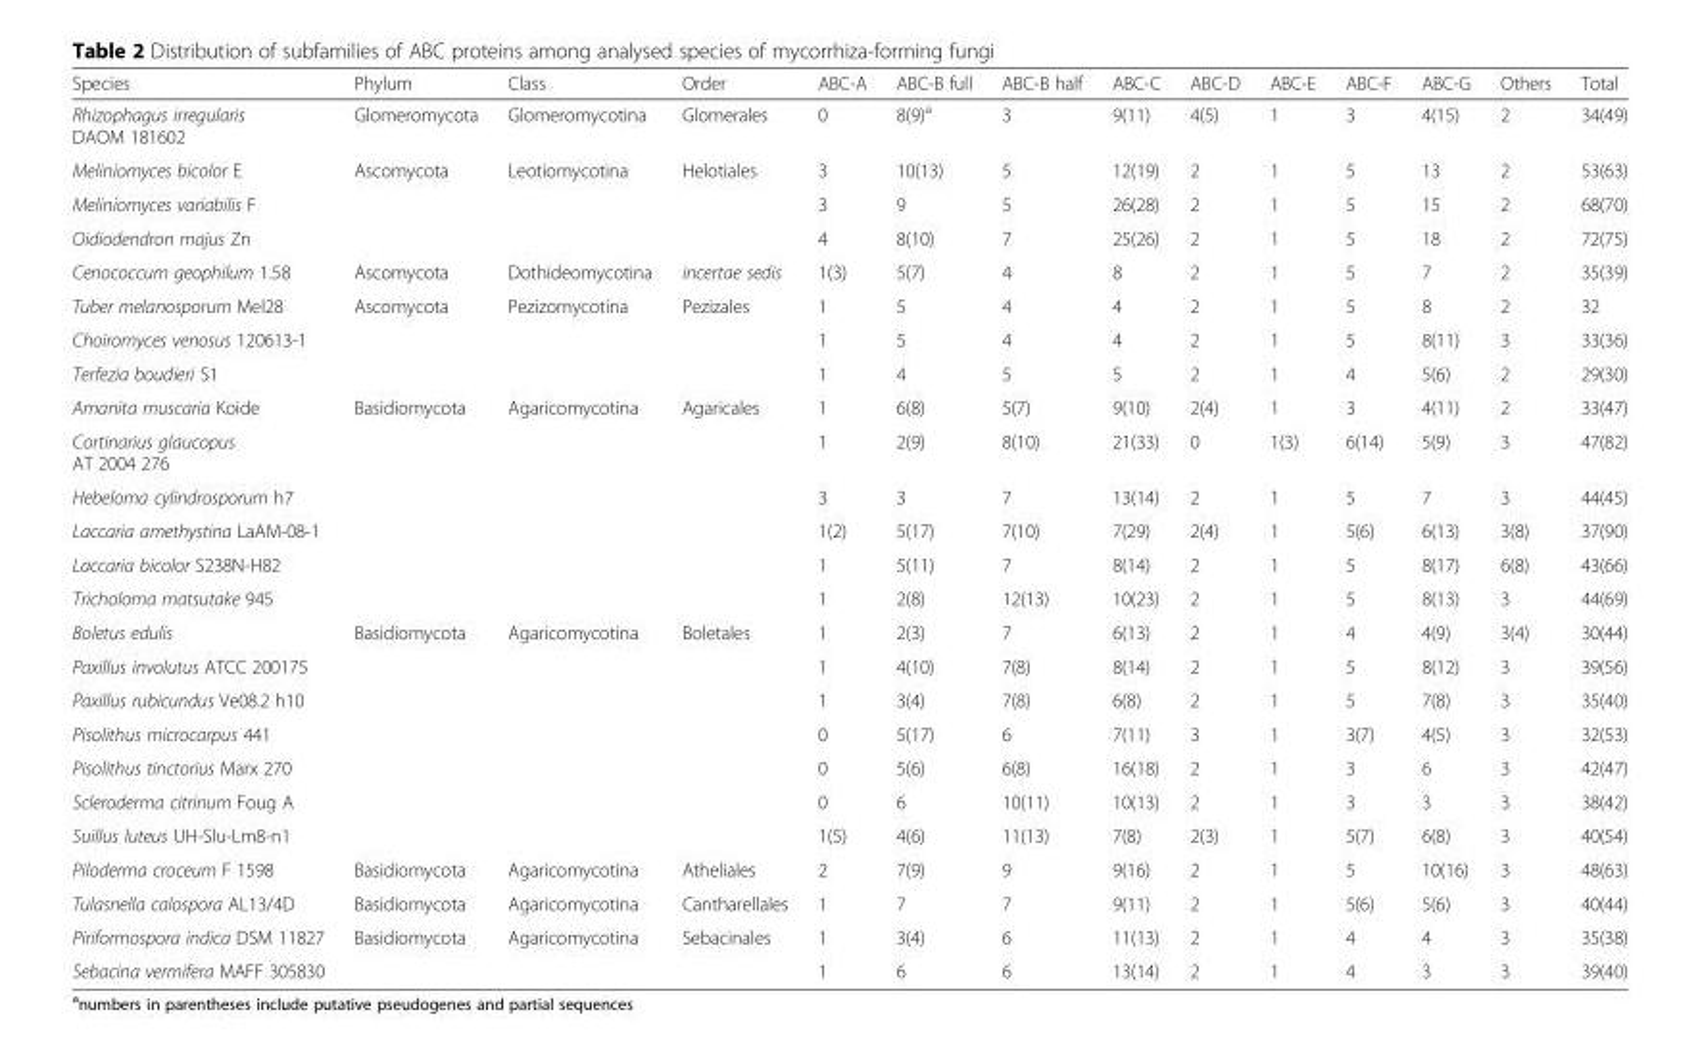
<table><thead><tr><td>Species</td><td>Phylum</td><td>Class</td><td>Order</td><td>ABC-A</td><td>ABC-B full</td><td>ABC-B half</td><td>ABC-C</td><td>ABC-D</td><td>ABC-E</td><td>ABC-F</td><td>ABC-G</td><td>Others</td><td>Total</td></tr></thead><tbody><tr><td>Rhizophagus irregularis DAOM 181602</td><td>Glomeromycota</td><td>Glomeromycotina</td><td>Glomerales</td><td>0</td><td>8(9)<sup>a</sup></td><td>3</td><td>9(11)</td><td>4(5)</td><td>1</td><td>3</td><td>4(15)</td><td>2</td><td>34(49)</td></tr><tr><td>Meliniomyces bicolor E</td><td rowspan="3">Ascomycota</td><td rowspan="3">Leotiomycotina</td><td rowspan="3">Helotiales</td><td>3</td><td>10(13)</td><td>5</td><td>12(19)</td><td>2</td><td>1</td><td>5</td><td>13</td><td>2</td><td>53(63)</td></tr><tr><td>Meliniomyces variabilis F</td><td>3</td><td>9</td><td>5</td><td>26(28)</td><td>2</td><td>1</td><td>5</td><td>15</td><td>2</td><td>68(70)</td></tr><tr><td>Oidiodendron majus Zn</td><td>4</td><td>8(10)</td><td>7</td><td>25(26)</td><td>2</td><td>1</td><td>5</td><td>18</td><td>2</td><td>72(75)</td></tr><tr><td>Cenococcum geophilum 1.58</td><td>Ascomycota</td><td>Dothideomycotina</td><td>incertae sedis</td><td>1(3)</td><td>5(7)</td><td>4</td><td>8</td><td>2</td><td>1</td><td>5</td><td>7</td><td>2</td><td>35(39)</td></tr><tr><td>Tuber melanosporum Mel28</td><td rowspan="3">Ascomycota</td><td rowspan="3">Pezizomycotina</td><td rowspan="3">Pezizales</td><td>1</td><td>5</td><td>4</td><td>4</td><td>2</td><td>1</td><td>5</td><td>8</td><td>2</td><td>32</td></tr><tr><td>Choiromyces venosus 120613-1</td><td>1</td><td>5</td><td>4</td><td>4</td><td>2</td><td>1</td><td>5</td><td>8(11)</td><td>3</td><td>33(36)</td></tr><tr><td>Terfezia boudieri S1</td><td>1</td><td>4</td><td>5</td><td>5</td><td>2</td><td>1</td><td>4</td><td>5(6)</td><td>2</td><td>29(30)</td></tr><tr><td>Amanita muscaria Koide</td><td rowspan="6">Basidiomycota</td><td rowspan="6">Agaricomycotina</td><td rowspan="6">Agaricales</td><td>1</td><td>6(8)</td><td>5(7)</td><td>9(10)</td><td>2(4)</td><td>1</td><td>3</td><td>4(11)</td><td>2</td><td>33(47)</td></tr><tr><td>Cortinarius glaucopus AT 2004 276</td><td>1</td><td>2(9)</td><td>8(10)</td><td>21(33)</td><td>0</td><td>1(3)</td><td>6(14)</td><td>5(9)</td><td>3</td><td>47(82)</td></tr><tr><td>Hebeloma cylindrosporum h7</td><td>3</td><td>3</td><td>7</td><td>13(14)</td><td>2</td><td>1</td><td>5</td><td>7</td><td>3</td><td>44(45)</td></tr><tr><td>Laccaria amethystina LaAM-08-1</td><td>1(2)</td><td>5(17)</td><td>7(10)</td><td>7(29)</td><td>2(4)</td><td>1</td><td>5(6)</td><td>6(13)</td><td>3(8)</td><td>37(90)</td></tr><tr><td>Laccaria bicolor S238N-H82</td><td>1</td><td>5(11)</td><td>7</td><td>8(14)</td><td>2</td><td>1</td><td>5</td><td>8(17)</td><td>6(8)</td><td>43(66)</td></tr><tr><td>Tricholoma matsutake 945</td><td>1</td><td>2(8)</td><td>12(13)</td><td>10(23)</td><td>2</td><td>1</td><td>5</td><td>8(13)</td><td>3</td><td>44(69)</td></tr><tr><td>Boletus edulis</td><td rowspan="7">Basidiomycota</td><td rowspan="7">Agaricomycotina</td><td rowspan="7">Boletales</td><td>1</td><td>2(3)</td><td>7</td><td>6(13)</td><td>2</td><td>1</td><td>4</td><td>4(9)</td><td>3(4)</td><td>30(44)</td></tr><tr><td>Paxillus involutus ATCC 200175</td><td>1</td><td>4(10)</td><td>7(8)</td><td>8(14)</td><td>2</td><td>1</td><td>5</td><td>8(12)</td><td>3</td><td>39(56)</td></tr><tr><td>Paxillus rubicundus Ve08.2 h10</td><td>1</td><td>3(4)</td><td>7(8)</td><td>6(8)</td><td>2</td><td>1</td><td>5</td><td>7(8)</td><td>3</td><td>35(40)</td></tr><tr><td>Pisolithus microcarpus 441</td><td>0</td><td>5(17)</td><td>6</td><td>7(11)</td><td>3</td><td>1</td><td>3(7)</td><td>4(5)</td><td>3</td><td>32(53)</td></tr><tr><td>Pisolithus tinctorius Marx 270</td><td>0</td><td>5(6)</td><td>6(8)</td><td>16(18)</td><td>2</td><td>1</td><td>3</td><td>6</td><td>3</td><td>42(47)</td></tr><tr><td>Scleroderma citrinum Foug A</td><td>0</td><td>6</td><td>10(11)</td><td>10(13)</td><td>2</td><td>1</td><td>3</td><td>3</td><td>3</td><td>38(42)</td></tr><tr><td>Suillus luteus UH-Slu-Lm8-n1</td><td>1(5)</td><td>4(6)</td><td>11(13)</td><td>7(8)</td><td>2(3)</td><td>1</td><td>5(7)</td><td>6(8)</td><td>3</td><td>40(54)</td></tr><tr><td>Piloderma croceum F 1598</td><td>Basidiomycota</td><td>Agaricomycotina</td><td>Atheliales</td><td>2</td><td>7(9)</td><td>9</td><td>9(16)</td><td>2</td><td>1</td><td>5</td><td>10(16)</td><td>3</td><td>48(63)</td></tr><tr><td>Tulasnella calospora AL13/4D</td><td>Basidiomycota</td><td>Agaricomycotina</td><td>Cantharellales</td><td>1</td><td>7</td><td>7</td><td>9(11)</td><td>2</td><td>1</td><td>5(6)</td><td>5(6)</td><td>3</td><td>40(44)</td></tr><tr><td>Piriformospora indica DSM 11827</td><td rowspan="2">Basidiomycota</td><td rowspan="2">Agaricomycotina</td><td rowspan="2">Sebacinales</td><td>1</td><td>3(4)</td><td>6</td><td>11(13)</td><td>2</td><td>1</td><td>4</td><td>4</td><td>3</td><td>35(38)</td></tr><tr><td>Sebacina vermifera MAFF 305830</td><td>1</td><td>6</td><td>6</td><td>13(14)</td><td>2</td><td>1</td><td>4</td><td>3</td><td>3</td><td>39(40)</td></tr></tbody></table>